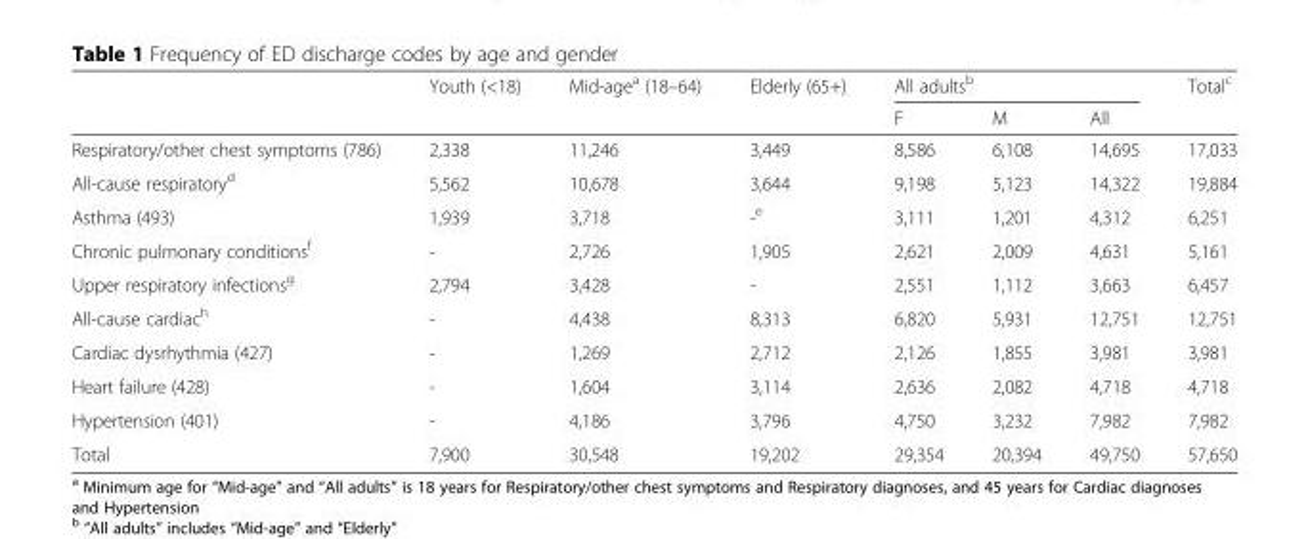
<table><thead><tr><td rowspan="2"></td><td rowspan="2">Youth (&lt;18)</td><td rowspan="2">Mid-age<sup>a</sup> (18–64)</td><td rowspan="2">Elderly (65+)</td><td colspan="3">All adults<sup>b</sup></td><td rowspan="2">Total<sup>c</sup></td></tr><tr><td>F</td><td>M</td><td>All</td></tr></thead><tbody><tr><td>Respiratory/other chest symptoms (786)</td><td>2,338</td><td>11,246</td><td>3,449</td><td>8,586</td><td>6,108</td><td>14,695</td><td>17,033</td></tr><tr><td>All-cause respiratory<sup>d</sup></td><td>5,562</td><td>10,678</td><td>3,644</td><td>9,198</td><td>5,123</td><td>14,322</td><td>19,884</td></tr><tr><td>Asthma (493)</td><td>1,939</td><td>3,718</td><td>-<sup>e</sup></td><td>3,111</td><td>1,201</td><td>4,312</td><td>6,251</td></tr><tr><td>Chronic pulmonary conditions<sup>f</sup></td><td>-</td><td>2,726</td><td>1,905</td><td>2,621</td><td>2,009</td><td>4,631</td><td>5,161</td></tr><tr><td>Upper respiratory infections<sup>g</sup></td><td>2,794</td><td>3,428</td><td>-</td><td>2,551</td><td>1,112</td><td>3,663</td><td>6,457</td></tr><tr><td>All-cause cardiac<sup>h</sup></td><td>-</td><td>4,438</td><td>8,313</td><td>6,820</td><td>5,931</td><td>12,751</td><td>12,751</td></tr><tr><td>Cardiac dysrhythmia (427)</td><td>-</td><td>1,269</td><td>2,712</td><td>2,126</td><td>1,855</td><td>3,981</td><td>3,981</td></tr><tr><td>Heart failure (428)</td><td>-</td><td>1,604</td><td>3,114</td><td>2,636</td><td>2,082</td><td>4,718</td><td>4,718</td></tr><tr><td>Hypertension (401)</td><td>-</td><td>4,186</td><td>3,796</td><td>4,750</td><td>3,232</td><td>7,982</td><td>7,982</td></tr><tr><td>Total</td><td>7,900</td><td>30,548</td><td>19,202</td><td>29,354</td><td>20,394</td><td>49,750</td><td>57,650</td></tr></tbody></table>